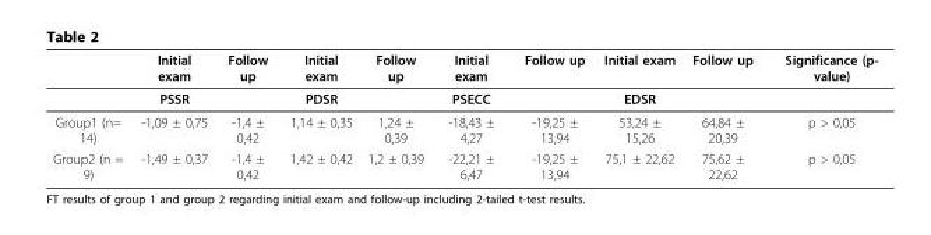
<table><thead><tr><td rowspan="2"></td><td rowspan="2">Initial exam PSSR</td><td rowspan="2">Follow up</td><td rowspan="2">Initial exam PDSR</td><td rowspan="2">Follow up</td><td rowspan="2">Initial exam PSECC</td><td rowspan="2">Follow up</td><td rowspan="2">Initial exam EDSR</td><td rowspan="2">Follow up</td><td rowspan="2">Significance (p- value)</td></tr><tr></tr></thead><tbody><tr><td>Group1 (n= 14)</td><td>-1,09 ± 0,75</td><td>-1,4 ± 0,42</td><td>1,14 ± 0,35</td><td>1,24 ± 0,39</td><td>-18,43 ± 4,27</td><td>-19,25 ± 13,94</td><td>53,24 ± 15,26</td><td>64,84 ± 20,39</td><td>p &gt; 0,05</td></tr><tr><td>Group2 (n = 9)</td><td>-1,49 ± 0,37</td><td>-1,4 ± 0,42</td><td>1,42 ± 0,42</td><td>1,2 ± 0,39</td><td>-22,21 ± 6,47</td><td>-19,25 ± 13,94</td><td>75,1 ± 22,62</td><td>75,62 ± 22,62</td><td>p &gt; 0,05</td></tr></tbody></table>